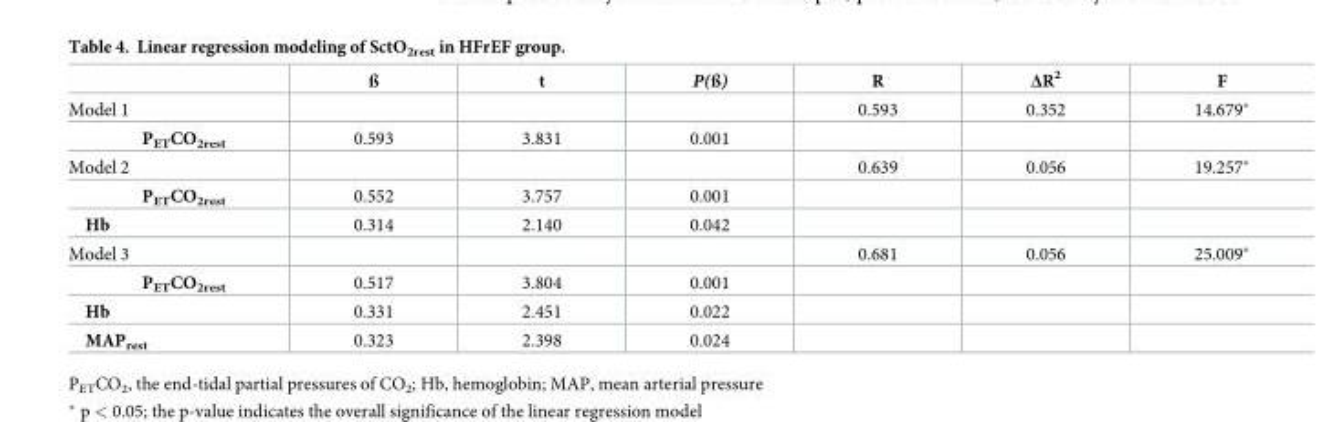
<table><thead><tr><td></td><td>ß</td><td>t</td><td>P(ß)</td><td>R</td><td>ΔR<sup>2</sup></td><td>F</td></tr></thead><tbody><tr><td>Model 1</td><td></td><td></td><td></td><td>0.593</td><td>0.352</td><td>14.679*</td></tr><tr><td>P<sub>ET</sub>CO<sub>2rest</sub></td><td>0.593</td><td>3.831</td><td>0.001</td><td></td><td></td><td></td></tr><tr><td>Model 2</td><td></td><td></td><td></td><td>0.639</td><td>0.056</td><td>19.257*</td></tr><tr><td>P<sub>ET</sub>CO<sub>2rest</sub></td><td>0.552</td><td>3.757</td><td>0.001</td><td></td><td></td><td></td></tr><tr><td>Hb</td><td>0.314</td><td>2.140</td><td>0.042</td><td></td><td></td><td></td></tr><tr><td>Model 3</td><td></td><td></td><td></td><td>0.681</td><td>0.056</td><td>25.009*</td></tr><tr><td>P<sub>ET</sub>CO<sub>2rest</sub></td><td>0.517</td><td>3.804</td><td>0.001</td><td></td><td></td><td></td></tr><tr><td>Hb</td><td>0.331</td><td>2.451</td><td>0.022</td><td></td><td></td><td></td></tr><tr><td>MAP<sub>rest</sub></td><td>0.323</td><td>2.398</td><td>0.024</td><td></td><td></td><td></td></tr></tbody></table>